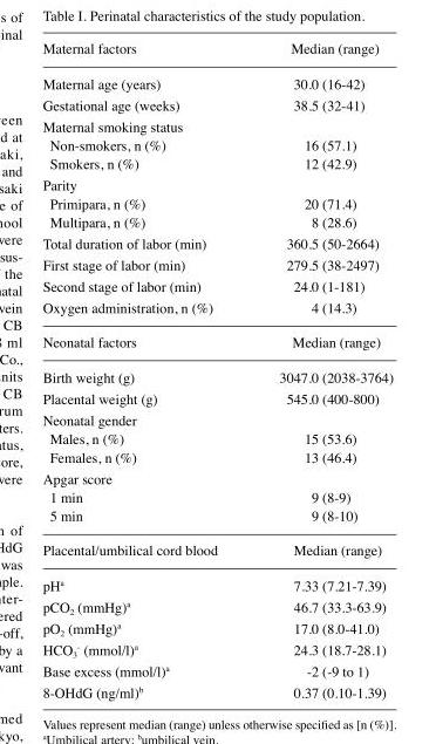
<table><tbody><tr><td>Maternal factors</td><td>Median (range)</td></tr><tr><td>Maternal age (years)</td><td>30.0 (16-42)</td></tr><tr><td>Gestational age (weeks)</td><td>38.5 (32-41)</td></tr><tr><td colspan="2">Maternal smoking status</td></tr><tr><td>Non-smokers, n (%)</td><td>16 (57.1)</td></tr><tr><td>Smokers, n (%)</td><td>12 (42.9)</td></tr><tr><td colspan="2">Parity</td></tr><tr><td>Primipara, n (%)</td><td>20 (71.4)</td></tr><tr><td>Multipara, n (%)</td><td>8 (28.6)</td></tr><tr><td>Total duration of labor (min)</td><td>360.5 (50-2664)</td></tr><tr><td>First stage of labor (min)</td><td>279.5 (38-2497)</td></tr><tr><td>Second stage of labor (min)</td><td>24.0 (1-181)</td></tr><tr><td>Oxygen administration, n (%)</td><td>4 (14.3)</td></tr><tr><td>Neonatal factors</td><td>Median (range)</td></tr><tr><td>Birth weight (g)</td><td>3047.0 (2038-3764)</td></tr><tr><td>Placental weight (g)</td><td>545.0 (400-800)</td></tr><tr><td colspan="2">Neonatal gender</td></tr><tr><td>Males, n (%)</td><td>15 (53.6)</td></tr><tr><td>Females, n (%)</td><td>13 (46.4)</td></tr><tr><td colspan="2">Apgar score</td></tr><tr><td>1 min</td><td>9 (8-9)</td></tr><tr><td>5 min</td><td>9 (8-10)</td></tr><tr><td>Placental/umbilical cord blood</td><td>Median (range)</td></tr><tr><td>pH<sup>a</sup></td><td>7.33 (7.21-7.39)</td></tr><tr><td>pCO<sub>2</sub> (mmHg)<sup>a</sup></td><td>46.7 (33.3-63.9)</td></tr><tr><td>pO<sub>2</sub> (mmHg)<sup>a</sup></td><td>17.0 (8.0-41.0)</td></tr><tr><td>HCO<sub>3</sub> <sup>-</sup> (mmol/l)<sup>a</sup></td><td>24.3 (18.7-28.1)</td></tr><tr><td>Base excess (mmol/l)<sup>a</sup></td><td>-2 (-9 to 1)</td></tr><tr><td>8-OHdG (ng/ml)<sup>b</sup></td><td>0.37 (0.10-1.39)</td></tr></tbody></table>